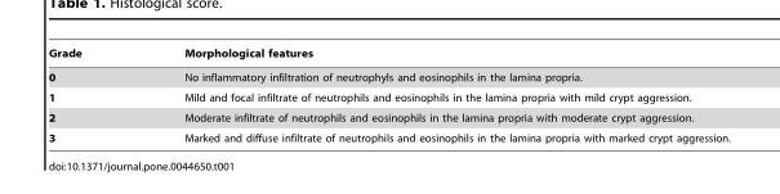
<table><thead><tr><td>Grade</td><td>Morphological features</td></tr></thead><tbody><tr><td>0</td><td>No inflammatory infiltration of neutrophyls and eosinophils in the lamina propria.</td></tr><tr><td>1</td><td>Mild and focal infiltrate of neutrophils and eosinophils in the lamina propria with mild crypt aggression.</td></tr><tr><td>2</td><td>Moderate infiltrate of neutrophils and eosinophils in the lamina propria with moderate crypt aggression.</td></tr><tr><td>3</td><td>Marked and diffuse infiltrate of neutrophils and eosinophils in the lamina propria with marked crypt aggression.</td></tr></tbody></table>